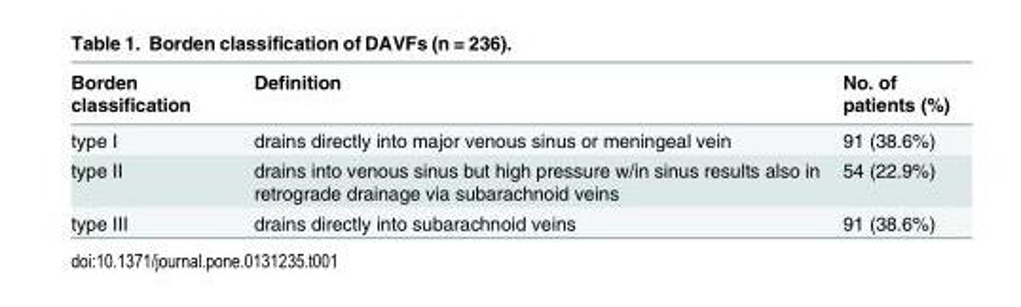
<table><thead><tr><td>Borden classification</td><td>Definition</td><td>No. of patients (%)</td></tr></thead><tbody><tr><td>type I</td><td>drains directly into major venous sinus or meningeal vein</td><td>91 (38.6%)</td></tr><tr><td>type II</td><td>drains into venous sinus but high pressure w/in sinus results also in retrograde drainage via subarachnoid veins</td><td>54 (22.9%)</td></tr><tr><td>type III</td><td>drains directly into subarachnoid veins</td><td>91 (38.6%)</td></tr></tbody></table>